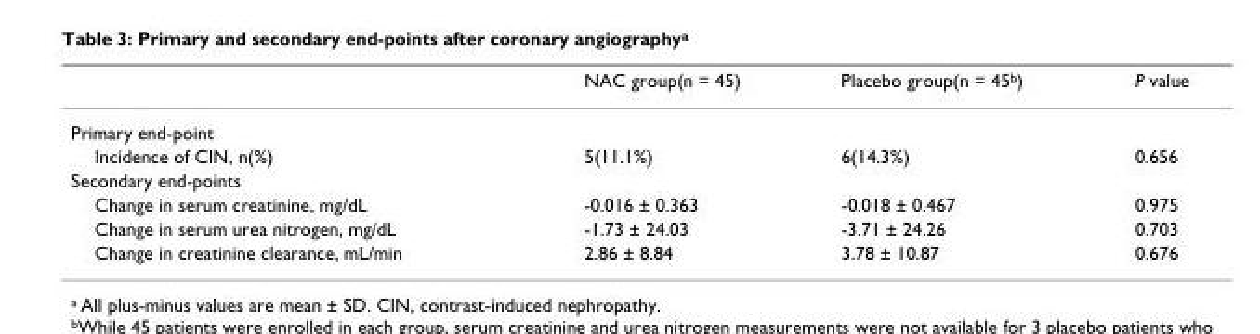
<table><thead><tr><td></td><td>NAC group(n = 45)</td><td>Placebo group(n = 45<sup>b</sup>)</td><td>P value</td></tr></thead><tbody><tr><td colspan="4">Primary end-point</td></tr><tr><td>Incidence of CIN, n(%)</td><td>5(11.1%)</td><td>6(14.3%)</td><td>0.656</td></tr><tr><td colspan="4">Secondary end-points</td></tr><tr><td>Change in serum creatinine, mg/dL</td><td>-0.016 ± 0.363</td><td>-0.018 ± 0.467</td><td>0.975</td></tr><tr><td>Change in serum urea nitrogen, mg/dL</td><td>-1.73 ± 24.03</td><td>-3.71 ± 24.26</td><td>0.703</td></tr><tr><td>Change in creatinine clearance, mL/min</td><td>2.86 ± 8.84</td><td>3.78 ± 10.87</td><td>0.676</td></tr></tbody></table>